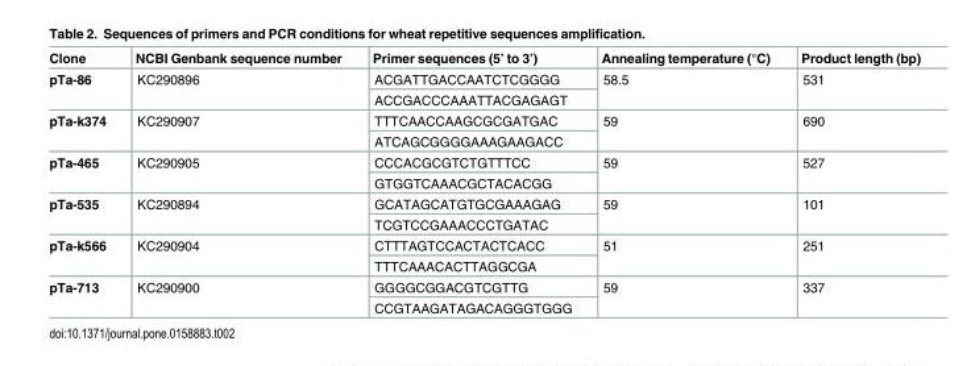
<table><thead><tr><td>Clone</td><td>NCBI Genbank sequence number</td><td>Primer sequences (5’ to 3’)</td><td>Annealing temperature (°C)</td><td>Product length (bp)</td></tr></thead><tbody><tr><td rowspan="2">pTa-86</td><td rowspan="2">KC290896</td><td>ACGATTGACCAATCTCGGGG</td><td rowspan="2">58.5</td><td rowspan="2">531</td></tr><tr><td>ACCGACCCAAATTACGAGAGT</td></tr><tr><td rowspan="2">pTa-k374</td><td rowspan="2">KC290907</td><td>TTTCAACCAAGCGCGATGAC</td><td rowspan="2">59</td><td rowspan="2">690</td></tr><tr><td>ATCAGCGGGGAAAGAAGACC</td></tr><tr><td rowspan="2">pTa-465</td><td rowspan="2">KC290905</td><td>CCCACGCGTCTGTTTCC</td><td rowspan="2">59</td><td rowspan="2">527</td></tr><tr><td>GTGGTCAAACGCTACACGG</td></tr><tr><td rowspan="2">pTa-535</td><td rowspan="2">KC290894</td><td>GCATAGCATGTGCGAAAGAG</td><td rowspan="2">59</td><td rowspan="2">101</td></tr><tr><td>TCGTCCGAAACCCTGATAC</td></tr><tr><td rowspan="2">pTa-k566</td><td rowspan="2">KC290904</td><td>CTTTAGTCCACTACTCACC</td><td rowspan="2">51</td><td rowspan="2">251</td></tr><tr><td>TTTCAAACACTTAGGCGA</td></tr><tr><td rowspan="2">pTa-713</td><td rowspan="2">KC290900</td><td>GGGGCGGACGTCGTTG</td><td rowspan="2">59</td><td rowspan="2">337</td></tr><tr><td>CCGTAAGATAGACAGGGTGGG</td></tr></tbody></table>